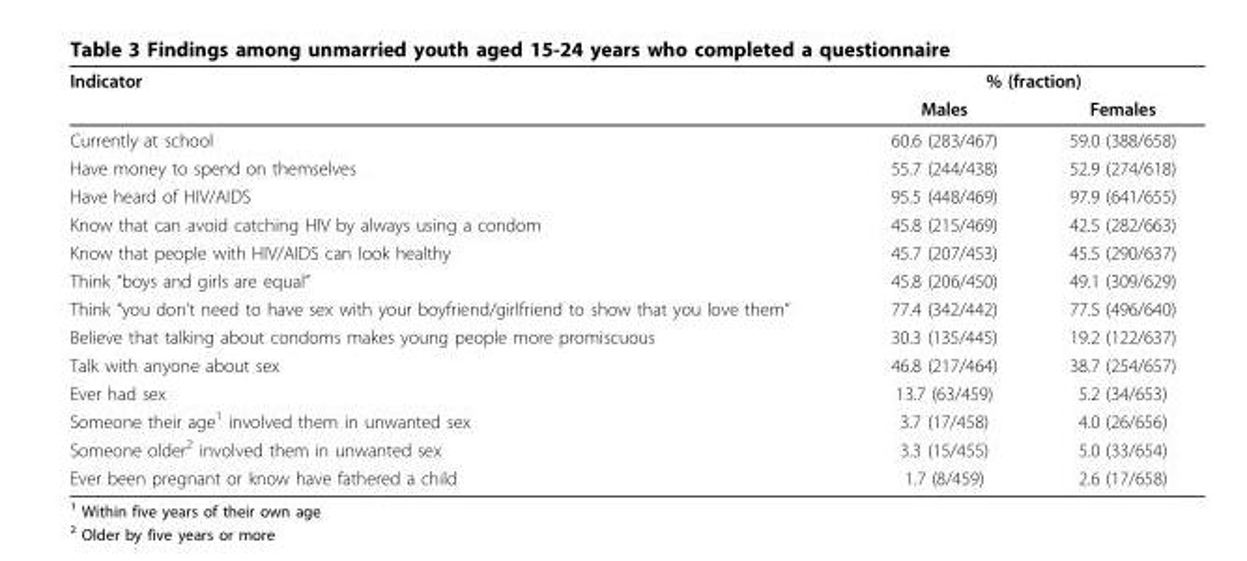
<table><thead><tr><td rowspan="2">Indicator</td><td colspan="2">% (fraction)</td></tr><tr><td>Males</td><td>Females</td></tr></thead><tbody><tr><td>Currently at school</td><td>60.6 (283/467)</td><td>59.0 (388/658)</td></tr><tr><td>Have money to spend on themselves</td><td>55.7 (244/438)</td><td>52.9 (274/618)</td></tr><tr><td>Have heard of HIV/AIDS</td><td>95.5 (448/469)</td><td>97.9 (641/655)</td></tr><tr><td>Know that can avoid catching HIV by always using a condom</td><td>45.8 (215/469)</td><td>42.5 (282/663)</td></tr><tr><td>Know that people with HIV/AIDS can look healthy</td><td>45.7 (207/453)</td><td>45.5 (290/637)</td></tr><tr><td>Think “boys and girls are equal”</td><td>45.8 (206/450)</td><td>49.1 (309/629)</td></tr><tr><td>Think “you don’t need to have sex with your boyfriend/girlfriend to show that you love them”</td><td>77.4 (342/442)</td><td>77.5 (496/640)</td></tr><tr><td>Believe that talking about condoms makes young people more promiscuous</td><td>30.3 (135/445)</td><td>19.2 (122/637)</td></tr><tr><td>Talk with anyone about sex</td><td>46.8 (217/464)</td><td>38.7 (254/657)</td></tr><tr><td>Ever had sex</td><td>13.7 (63/459)</td><td>5.2 (34/653)</td></tr><tr><td>Someone their age<sup>1</sup> involved them in unwanted sex</td><td>3.7 (17/458)</td><td>4.0 (26/656)</td></tr><tr><td>Someone older<sup>2</sup> involved them in unwanted sex</td><td>3.3 (15/455)</td><td>5.0 (33/654)</td></tr><tr><td>Ever been pregnant or know have fathered a child</td><td>1.7 (8/459)</td><td>2.6 (17/658)</td></tr></tbody></table>